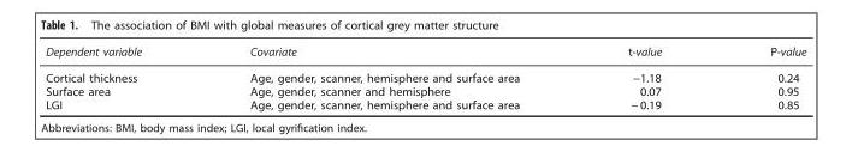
<table><thead><tr><td>Dependent variable</td><td>Covariate</td><td>t-value</td><td>P-value</td></tr></thead><tbody><tr><td>Cortical thickness</td><td>Age, gender, scanner, hemisphere and surface area</td><td>−1.18</td><td>0.24</td></tr><tr><td>Surface area</td><td>Age, gender, scanner and hemisphere</td><td>0.07</td><td>0.95</td></tr><tr><td>LGI</td><td>Age, gender, scanner, hemisphere and surface area</td><td>− 0.19</td><td>0.85</td></tr></tbody></table>